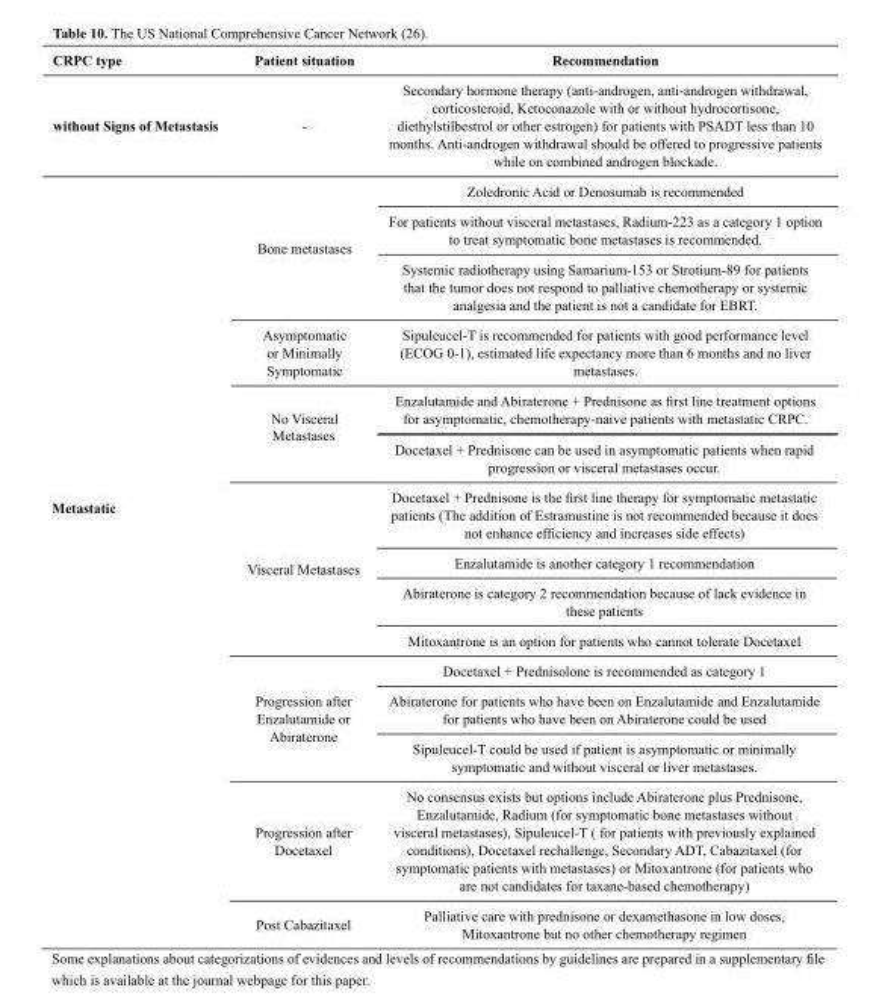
<table><thead><tr><td>CRPC type</td><td>Patient situation</td><td>Recommendation</td></tr></thead><tbody><tr><td>without Signs of Metastasis</td><td>-</td><td>Secondary hormone therapy (anti-androgen, anti-androgen withdrawal, corticosteroid, Ketoconazole with or without hydrocortisone, diethylstilbestrol or other estrogen) for patients with PSADT less than 10 months. Anti-androgen withdrawal should be offered to progressive patients while on combined androgen blockade.</td></tr><tr><td rowspan="15">Metastatic</td><td rowspan="3">Bone metastases</td><td>Zoledronic Acid or Denosumab is recommended</td></tr><tr><td>For patients without visceral metastases, Radium-223 as a category 1 option to treat symptomatic bone metastases is recommended.</td></tr><tr><td>Systemic radiotherapy using Samarium-153 or Strotium-89 for patients that the tumor does not respond to palliative chemotherapy or systemic analgesia and the patient is not a candidate for EBRT.</td></tr><tr><td>Asymptomatic or Minimally Symptomatic</td><td>Sipuleucel-T is recommended for patients with good performance level (ECOG 0-1), estimated life expectancy more than 6 months and no liver metastases.</td></tr><tr><td rowspan="2">No Visceral Metastases</td><td>Enzalutamide and Abiraterone + Prednisone as first line treatment options for asymptomatic, chemotherapy-naive patients with metastatic CRPC.</td></tr><tr><td>Docetaxel + Prednisone can be used in asymptomatic patients when rapid progression or visceral metastases occur.</td></tr><tr><td rowspan="4">Visceral Metastases</td><td>Docetaxel + Prednisone is the first line therapy for symptomatic metastatic patients (The addition of Estramustine is not recommended because it does not enhance efficiency and increases side effects)</td></tr><tr><td>Enzalutamide is another category 1 recommendation</td></tr><tr><td>Abiraterone is category 2 recommendation because of lack evidence in these patients</td></tr><tr><td>Mitoxantrone is an option for patients who cannot tolerate Docetaxel</td></tr><tr><td rowspan="3">Progression after Enzalutamide or Abiraterone</td><td>Docetaxel + Prednisolone is recommended as category 1</td></tr><tr><td>Abiraterone for patients who have been on Enzalutamide and Enzalutamide for patients who have been on Abiraterone could be used</td></tr><tr><td>Sipuleucel-T could be used if patient is asymptomatic or minimally symptomatic and without visceral or liver metastases.</td></tr><tr><td>Progression after Docetaxel</td><td>No consensus exists but options include Abiraterone plus Prednisone, Enzalutamide, Radium (for symptomatic bone metastases without visceral metastases), Sipuleucel-T ( for patients with previously explained conditions), Docetaxel rechallenge, Secondary ADT, Cabazitaxel (for symptomatic patients with metastases) or Mitoxantrone (for patients who are not candidates for taxane-based chemotherapy)</td></tr><tr><td>Post Cabazitaxel</td><td>Palliative care with prednisone or dexamethasone in low doses, Mitoxantrone but no other chemotherapy regimen</td></tr></tbody></table>